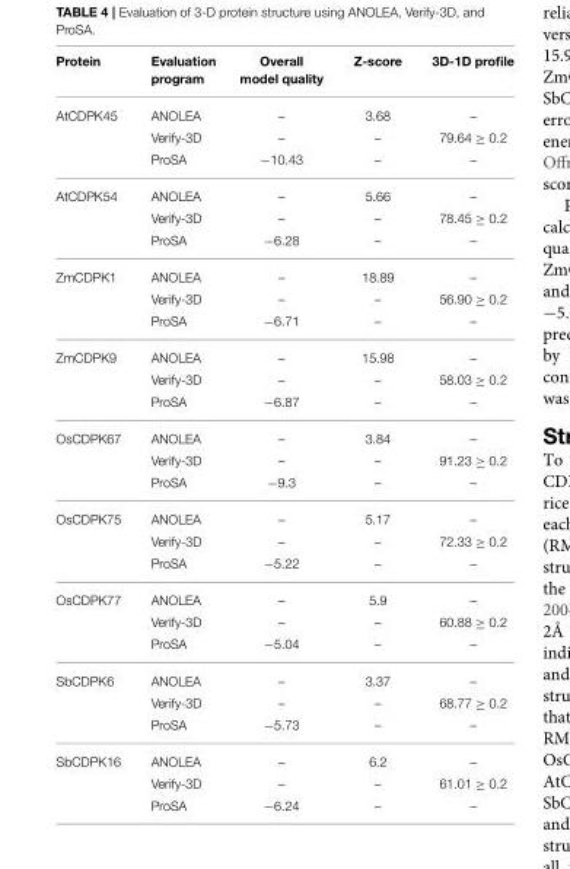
<table><thead><tr><td>Protein</td><td>Evaluation program</td><td>Overall model quality</td><td>Z-score</td><td>3D-1D profile</td></tr></thead><tbody><tr><td rowspan="3">AtCDPK45</td><td>ANOLEA</td><td>–</td><td>3.68</td><td>–</td></tr><tr><td>Verify-3D</td><td>–</td><td>–</td><td>79.64 ≥ 0.2</td></tr><tr><td>ProSA</td><td>−10.43</td><td>–</td><td>–</td></tr><tr><td rowspan="3">AtCDPK54</td><td>ANOLEA</td><td>–</td><td>5.66</td><td>–</td></tr><tr><td>Verify-3D</td><td>–</td><td>–</td><td>78.45 ≥ 0.2</td></tr><tr><td>ProSA</td><td>−6.28</td><td>–</td><td>–</td></tr><tr><td rowspan="3">ZmCDPK1</td><td>ANOLEA</td><td>–</td><td>18.89</td><td>–</td></tr><tr><td>Verify-3D</td><td>–</td><td>–</td><td>56.90 ≥ 0.2</td></tr><tr><td>ProSA</td><td>−6.71</td><td>–</td><td>–</td></tr><tr><td rowspan="3">ZmCDPK9</td><td>ANOLEA</td><td>–</td><td>15.98</td><td>–</td></tr><tr><td>Verify-3D</td><td>–</td><td>–</td><td>58.03 ≥ 0.2</td></tr><tr><td>ProSA</td><td>−6.87</td><td>–</td><td>–</td></tr><tr><td rowspan="3">OsCDPK67</td><td>ANOLEA</td><td>–</td><td>3.84</td><td>–</td></tr><tr><td>Verify-3D</td><td>–</td><td>–</td><td>91.23 ≥ 0.2</td></tr><tr><td>ProSA</td><td>−9.3</td><td>–</td><td>–</td></tr><tr><td rowspan="3">OsCDPK75</td><td>ANOLEA</td><td>–</td><td>5.17</td><td>–</td></tr><tr><td>Verify-3D</td><td>–</td><td>–</td><td>72.33 ≥ 0.2</td></tr><tr><td>ProSA</td><td>−5.22</td><td>–</td><td>–</td></tr><tr><td rowspan="3">OsCDPK77</td><td>ANOLEA</td><td>–</td><td>5.9</td><td>–</td></tr><tr><td>Verify-3D</td><td>–</td><td>–</td><td>60.88 ≥ 0.2</td></tr><tr><td>ProSA</td><td>−5.04</td><td>–</td><td>–</td></tr><tr><td rowspan="3">SbCDPK6</td><td>ANOLEA</td><td>–</td><td>3.37</td><td>–</td></tr><tr><td>Verify-3D</td><td>–</td><td>–</td><td>68.77 ≥ 0.2</td></tr><tr><td>ProSA</td><td>−5.73</td><td>–</td><td>–</td></tr><tr><td rowspan="3">SbCDPK16</td><td>ANOLEA</td><td>–</td><td>6.2</td><td>–</td></tr><tr><td>Verify-3D</td><td>–</td><td>–</td><td>61.01 ≥ 0.2</td></tr><tr><td>ProSA</td><td>−6.24</td><td>–</td><td>–</td></tr></tbody></table>